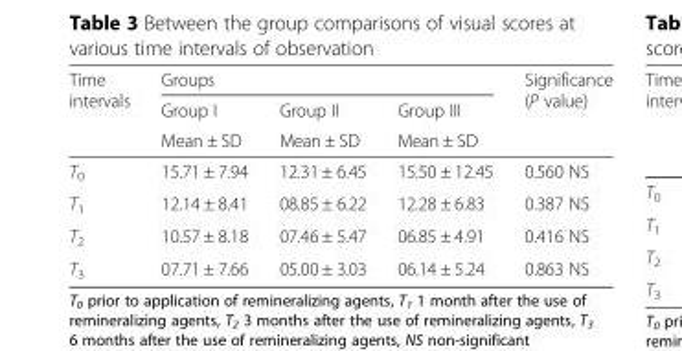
<table><thead><tr><td rowspan="3">Time intervals</td><td colspan="3">Groups</td><td rowspan="3">Significance (P value)</td></tr><tr><td rowspan="2">Group I Mean ± SD</td><td rowspan="2">Group II Mean ± SD</td><td rowspan="2">Group III Mean ± SD</td></tr><tr></tr></thead><tbody><tr><td>T<sub>0</sub></td><td>15.71 ± 7.94</td><td>12.31 ± 6.45</td><td>15.50 ± 12.45</td><td>0.560 NS</td></tr><tr><td>T<sub>1</sub></td><td>12.14 ± 8.41</td><td>08.85 ± 6.22</td><td>12.28 ± 6.83</td><td>0.387 NS</td></tr><tr><td>T<sub>2</sub></td><td>10.57 ± 8.18</td><td>07.46 ± 5.47</td><td>06.85 ± 4.91</td><td>0.416 NS</td></tr><tr><td>T<sub>3</sub></td><td>07.71 ± 7.66</td><td>05.00 ± 3.03</td><td>06.14 ± 5.24</td><td>0.863 NS</td></tr></tbody></table>